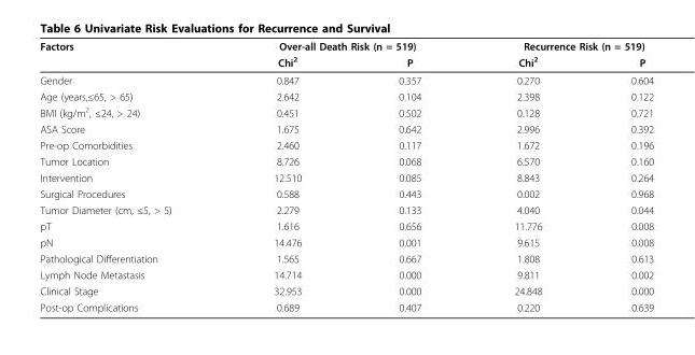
<table><thead><tr><td rowspan="2">Factors</td><td colspan="2">Over-all Death Risk (n = 519)</td><td colspan="2">Recurrence Risk (n = 519)</td></tr><tr><td>Chi<sup>2</sup></td><td>P</td><td>Chi<sup>2</sup></td><td>P</td></tr></thead><tbody><tr><td>Gender</td><td>0.847</td><td>0.357</td><td>0.270</td><td>0.604</td></tr><tr><td>Age (years,≤65, &gt; 65)</td><td>2.642</td><td>0.104</td><td>2.398</td><td>0.122</td></tr><tr><td>BMI (kg/m<sup>2</sup>, ≤24, &gt; 24)</td><td>0.451</td><td>0.502</td><td>0.128</td><td>0.721</td></tr><tr><td>ASA Score</td><td>1.675</td><td>0.642</td><td>2.996</td><td>0.392</td></tr><tr><td>Pre-op Comorbidities</td><td>2.460</td><td>0.117</td><td>1.672</td><td>0.196</td></tr><tr><td>Tumor Location</td><td>8.726</td><td>0.068</td><td>6.570</td><td>0.160</td></tr><tr><td>Intervention</td><td>12.510</td><td>0.085</td><td>8.843</td><td>0.264</td></tr><tr><td>Surgical Procedures</td><td>0.588</td><td>0.443</td><td>0.002</td><td>0.968</td></tr><tr><td>Tumor Diameter (cm, ≤5, &gt; 5)</td><td>2.279</td><td>0.133</td><td>4.040</td><td>0.044</td></tr><tr><td>pT</td><td>1.616</td><td>0.656</td><td>11.776</td><td>0.008</td></tr><tr><td>pN</td><td>14.476</td><td>0.001</td><td>9.615</td><td>0.008</td></tr><tr><td>Pathological Differentiation</td><td>1.565</td><td>0.667</td><td>1.808</td><td>0.613</td></tr><tr><td>Lymph Node Metastasis</td><td>14.714</td><td>0.000</td><td>9.811</td><td>0.002</td></tr><tr><td>Clinical Stage</td><td>32.953</td><td>0.000</td><td>24.848</td><td>0.000</td></tr><tr><td>Post-op Complications</td><td>0.689</td><td>0.407</td><td>0.220</td><td>0.639</td></tr></tbody></table>